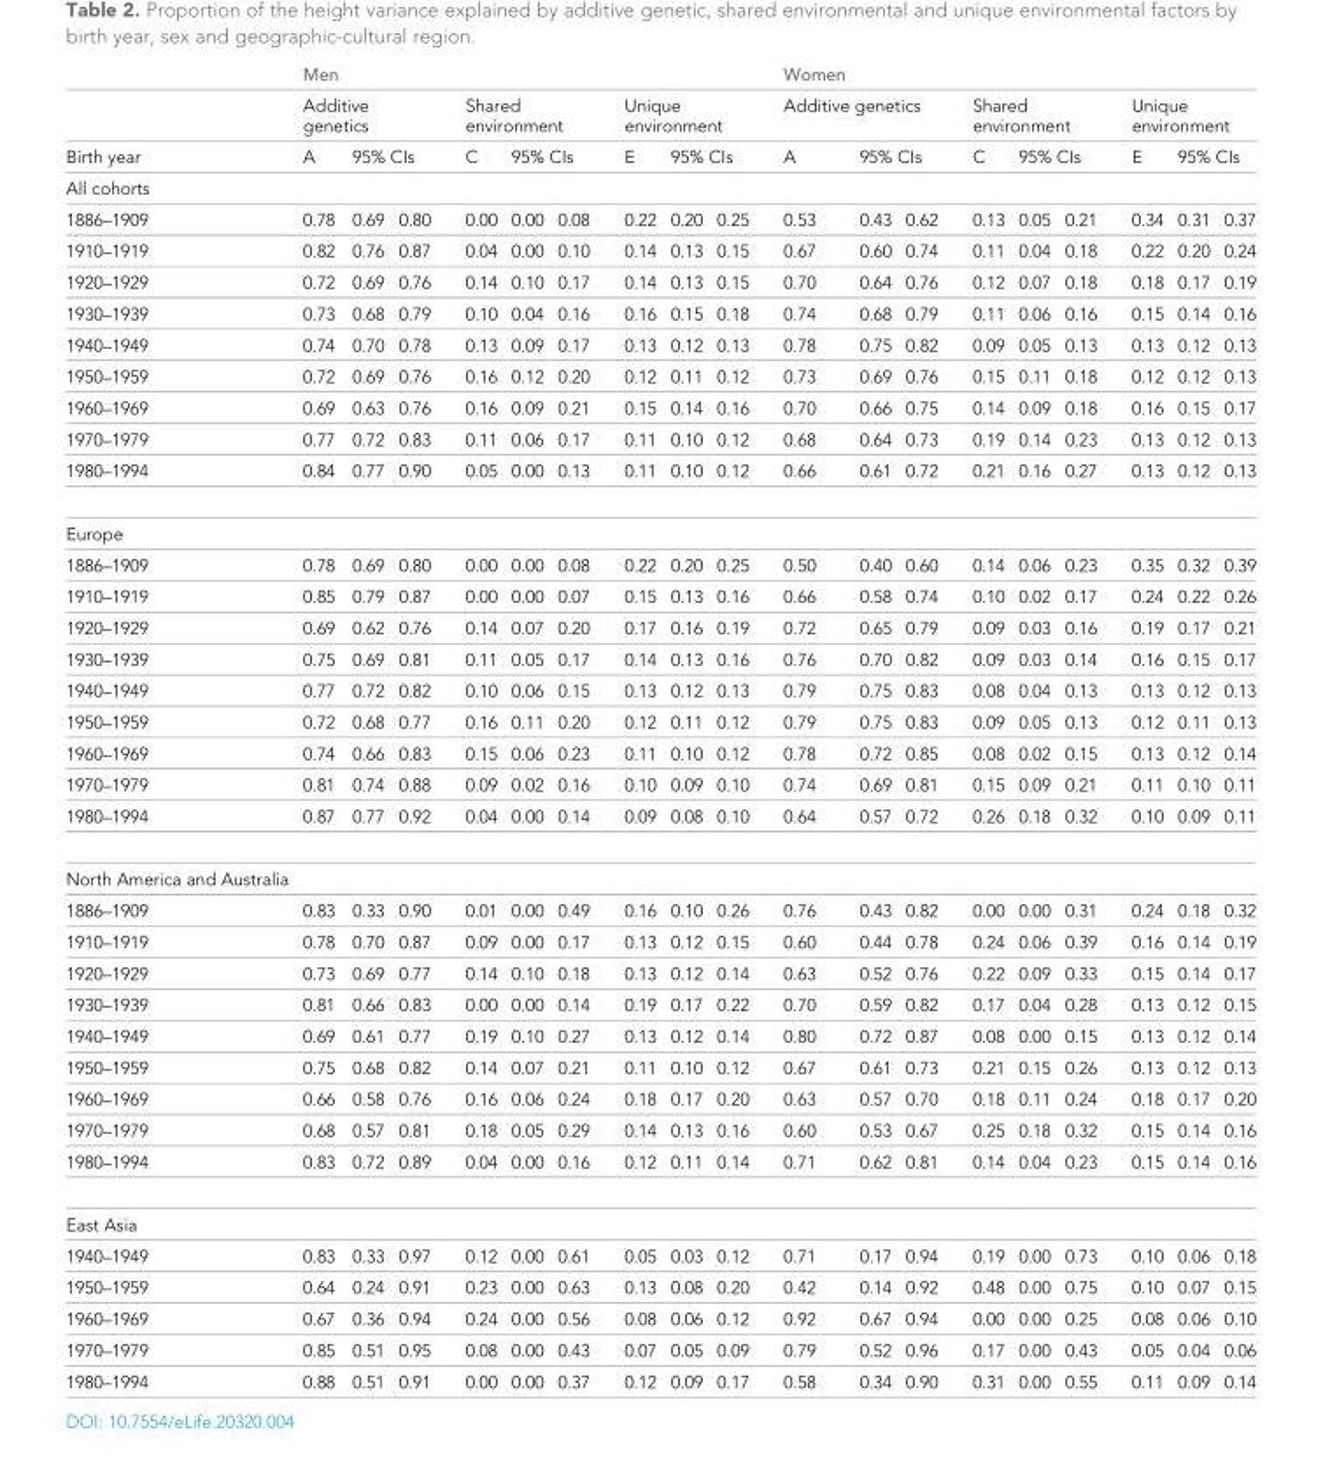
<table><thead><tr><td></td><td>Men</td><td></td><td></td><td></td><td></td><td></td><td></td><td></td><td></td><td>Women</td><td></td><td></td><td></td><td></td><td></td><td></td><td></td><td></td></tr></thead><tbody><tr><td></td><td colspan="3">Additive genetics</td><td colspan="3">Shared environment</td><td colspan="3">Unique environment</td><td colspan="3">Additive genetics</td><td colspan="3">Shared environment</td><td colspan="3">Unique environment</td></tr><tr><td>Birth year</td><td>A</td><td colspan="2">95% CIs</td><td>C</td><td colspan="2">95% CIs</td><td>E</td><td colspan="2">95% CIs</td><td>A</td><td colspan="2">95% CIs</td><td>C</td><td colspan="2">95% CIs</td><td>E</td><td colspan="2">95% CIs</td></tr><tr><td colspan="19">All cohorts</td></tr><tr><td>1886–1909</td><td>0.78</td><td>0.69</td><td>0.80</td><td>0.00</td><td>0.00</td><td>0.08</td><td>0.22</td><td>0.20</td><td>0.25</td><td>0.53</td><td>0.43</td><td>0.62</td><td>0.13</td><td>0.05</td><td>0.21</td><td>0.34</td><td>0.31</td><td>0.37</td></tr><tr><td>1910–1919</td><td>0.82</td><td>0.76</td><td>0.87</td><td>0.04</td><td>0.00</td><td>0.10</td><td>0.14</td><td>0.13</td><td>0.15</td><td>0.67</td><td>0.60</td><td>0.74</td><td>0.11</td><td>0.04</td><td>0.18</td><td>0.22</td><td>0.20</td><td>0.24</td></tr><tr><td>1920–1929</td><td>0.72</td><td>0.69</td><td>0.76</td><td>0.14</td><td>0.10</td><td>0.17</td><td>0.14</td><td>0.13</td><td>0.15</td><td>0.70</td><td>0.64</td><td>0.76</td><td>0.12</td><td>0.07</td><td>0.18</td><td>0.18</td><td>0.17</td><td>0.19</td></tr><tr><td>1930–1939</td><td>0.73</td><td>0.68</td><td>0.79</td><td>0.10</td><td>0.04</td><td>0.16</td><td>0.16</td><td>0.15</td><td>0.18</td><td>0.74</td><td>0.68</td><td>0.79</td><td>0.11</td><td>0.06</td><td>0.16</td><td>0.15</td><td>0.14</td><td>0.16</td></tr><tr><td>1940–1949</td><td>0.74</td><td>0.70</td><td>0.78</td><td>0.13</td><td>0.09</td><td>0.17</td><td>0.13</td><td>0.12</td><td>0.13</td><td>0.78</td><td>0.75</td><td>0.82</td><td>0.09</td><td>0.05</td><td>0.13</td><td>0.13</td><td>0.12</td><td>0.13</td></tr><tr><td>1950–1959</td><td>0.72</td><td>0.69</td><td>0.76</td><td>0.16</td><td>0.12</td><td>0.20</td><td>0.12</td><td>0.11</td><td>0.12</td><td>0.73</td><td>0.69</td><td>0.76</td><td>0.15</td><td>0.11</td><td>0.18</td><td>0.12</td><td>0.12</td><td>0.13</td></tr><tr><td>1960–1969</td><td>0.69</td><td>0.63</td><td>0.76</td><td>0.16</td><td>0.09</td><td>0.21</td><td>0.15</td><td>0.14</td><td>0.16</td><td>0.70</td><td>0.66</td><td>0.75</td><td>0.14</td><td>0.09</td><td>0.18</td><td>0.16</td><td>0.15</td><td>0.17</td></tr><tr><td>1970–1979</td><td>0.77</td><td>0.72</td><td>0.83</td><td>0.11</td><td>0.06</td><td>0.17</td><td>0.11</td><td>0.10</td><td>0.12</td><td>0.68</td><td>0.64</td><td>0.73</td><td>0.19</td><td>0.14</td><td>0.23</td><td>0.13</td><td>0.12</td><td>0.13</td></tr><tr><td>1980–1994</td><td>0.84</td><td>0.77</td><td>0.90</td><td>0.05</td><td>0.00</td><td>0.13</td><td>0.11</td><td>0.10</td><td>0.12</td><td>0.66</td><td>0.61</td><td>0.72</td><td>0.21</td><td>0.16</td><td>0.27</td><td>0.13</td><td>0.12</td><td>0.13</td></tr><tr><td colspan="19">Europe</td></tr><tr><td>1886–1909</td><td>0.78</td><td>0.69</td><td>0.80</td><td>0.00</td><td>0.00</td><td>0.08</td><td>0.22</td><td>0.20</td><td>0.25</td><td>0.50</td><td>0.40</td><td>0.60</td><td>0.14</td><td>0.06</td><td>0.23</td><td>0.35</td><td>0.32</td><td>0.39</td></tr><tr><td>1910–1919</td><td>0.85</td><td>0.79</td><td>0.87</td><td>0.00</td><td>0.00</td><td>0.07</td><td>0.15</td><td>0.13</td><td>0.16</td><td>0.66</td><td>0.58</td><td>0.74</td><td>0.10</td><td>0.02</td><td>0.17</td><td>0.24</td><td>0.22</td><td>0.26</td></tr><tr><td>1920–1929</td><td>0.69</td><td>0.62</td><td>0.76</td><td>0.14</td><td>0.07</td><td>0.20</td><td>0.17</td><td>0.16</td><td>0.19</td><td>0.72</td><td>0.65</td><td>0.79</td><td>0.09</td><td>0.03</td><td>0.16</td><td>0.19</td><td>0.17</td><td>0.21</td></tr><tr><td>1930–1939</td><td>0.75</td><td>0.69</td><td>0.81</td><td>0.11</td><td>0.05</td><td>0.17</td><td>0.14</td><td>0.13</td><td>0.16</td><td>0.76</td><td>0.70</td><td>0.82</td><td>0.09</td><td>0.03</td><td>0.14</td><td>0.16</td><td>0.15</td><td>0.17</td></tr><tr><td>1940–1949</td><td>0.77</td><td>0.72</td><td>0.82</td><td>0.10</td><td>0.06</td><td>0.15</td><td>0.13</td><td>0.12</td><td>0.13</td><td>0.79</td><td>0.75</td><td>0.83</td><td>0.08</td><td>0.04</td><td>0.13</td><td>0.13</td><td>0.12</td><td>0.13</td></tr><tr><td>1950–1959</td><td>0.72</td><td>0.68</td><td>0.77</td><td>0.16</td><td>0.11</td><td>0.20</td><td>0.12</td><td>0.11</td><td>0.12</td><td>0.79</td><td>0.75</td><td>0.83</td><td>0.09</td><td>0.05</td><td>0.13</td><td>0.12</td><td>0.11</td><td>0.13</td></tr><tr><td>1960–1969</td><td>0.74</td><td>0.66</td><td>0.83</td><td>0.15</td><td>0.06</td><td>0.23</td><td>0.11</td><td>0.10</td><td>0.12</td><td>0.78</td><td>0.72</td><td>0.85</td><td>0.08</td><td>0.02</td><td>0.15</td><td>0.13</td><td>0.12</td><td>0.14</td></tr><tr><td>1970–1979</td><td>0.81</td><td>0.74</td><td>0.88</td><td>0.09</td><td>0.02</td><td>0.16</td><td>0.10</td><td>0.09</td><td>0.10</td><td>0.74</td><td>0.69</td><td>0.81</td><td>0.15</td><td>0.09</td><td>0.21</td><td>0.11</td><td>0.10</td><td>0.11</td></tr><tr><td>1980–1994</td><td>0.87</td><td>0.77</td><td>0.92</td><td>0.04</td><td>0.00</td><td>0.14</td><td>0.09</td><td>0.08</td><td>0.10</td><td>0.64</td><td>0.57</td><td>0.72</td><td>0.26</td><td>0.18</td><td>0.32</td><td>0.10</td><td>0.09</td><td>0.11</td></tr><tr><td colspan="19">North America and Australia</td></tr><tr><td>1886–1909</td><td>0.83</td><td>0.33</td><td>0.90</td><td>0.01</td><td>0.00</td><td>0.49</td><td>0.16</td><td>0.10</td><td>0.26</td><td>0.76</td><td>0.43</td><td>0.82</td><td>0.00</td><td>0.00</td><td>0.31</td><td>0.24</td><td>0.18</td><td>0.32</td></tr><tr><td>1910–1919</td><td>0.78</td><td>0.70</td><td>0.87</td><td>0.09</td><td>0.00</td><td>0.17</td><td>0.13</td><td>0.12</td><td>0.15</td><td>0.60</td><td>0.44</td><td>0.78</td><td>0.24</td><td>0.06</td><td>0.39</td><td>0.16</td><td>0.14</td><td>0.19</td></tr><tr><td>1920–1929</td><td>0.73</td><td>0.69</td><td>0.77</td><td>0.14</td><td>0.10</td><td>0.18</td><td>0.13</td><td>0.12</td><td>0.14</td><td>0.63</td><td>0.52</td><td>0.76</td><td>0.22</td><td>0.09</td><td>0.33</td><td>0.15</td><td>0.14</td><td>0.17</td></tr><tr><td>1930–1939</td><td>0.81</td><td>0.66</td><td>0.83</td><td>0.00</td><td>0.00</td><td>0.14</td><td>0.19</td><td>0.17</td><td>0.22</td><td>0.70</td><td>0.59</td><td>0.82</td><td>0.17</td><td>0.04</td><td>0.28</td><td>0.13</td><td>0.12</td><td>0.15</td></tr><tr><td>1940–1949</td><td>0.69</td><td>0.61</td><td>0.77</td><td>0.19</td><td>0.10</td><td>0.27</td><td>0.13</td><td>0.12</td><td>0.14</td><td>0.80</td><td>0.72</td><td>0.87</td><td>0.08</td><td>0.00</td><td>0.15</td><td>0.13</td><td>0.12</td><td>0.14</td></tr><tr><td>1950–1959</td><td>0.75</td><td>0.68</td><td>0.82</td><td>0.14</td><td>0.07</td><td>0.21</td><td>0.11</td><td>0.10</td><td>0.12</td><td>0.67</td><td>0.61</td><td>0.73</td><td>0.21</td><td>0.15</td><td>0.26</td><td>0.13</td><td>0.12</td><td>0.13</td></tr><tr><td>1960–1969</td><td>0.66</td><td>0.58</td><td>0.76</td><td>0.16</td><td>0.06</td><td>0.24</td><td>0.18</td><td>0.17</td><td>0.20</td><td>0.63</td><td>0.57</td><td>0.70</td><td>0.18</td><td>0.11</td><td>0.24</td><td>0.18</td><td>0.17</td><td>0.20</td></tr><tr><td>1970–1979</td><td>0.68</td><td>0.57</td><td>0.81</td><td>0.18</td><td>0.05</td><td>0.29</td><td>0.14</td><td>0.13</td><td>0.16</td><td>0.60</td><td>0.53</td><td>0.67</td><td>0.25</td><td>0.18</td><td>0.32</td><td>0.15</td><td>0.14</td><td>0.16</td></tr><tr><td>1980–1994</td><td>0.83</td><td>0.72</td><td>0.89</td><td>0.04</td><td>0.00</td><td>0.16</td><td>0.12</td><td>0.11</td><td>0.14</td><td>0.71</td><td>0.62</td><td>0.81</td><td>0.14</td><td>0.04</td><td>0.23</td><td>0.15</td><td>0.14</td><td>0.16</td></tr><tr><td colspan="19">East Asia</td></tr><tr><td>1940–1949</td><td>0.83</td><td>0.33</td><td>0.97</td><td>0.12</td><td>0.00</td><td>0.61</td><td>0.05</td><td>0.03</td><td>0.12</td><td>0.71</td><td>0.17</td><td>0.94</td><td>0.19</td><td>0.00</td><td>0.73</td><td>0.10</td><td>0.06</td><td>0.18</td></tr><tr><td>1950–1959</td><td>0.64</td><td>0.24</td><td>0.91</td><td>0.23</td><td>0.00</td><td>0.63</td><td>0.13</td><td>0.08</td><td>0.20</td><td>0.42</td><td>0.14</td><td>0.92</td><td>0.48</td><td>0.00</td><td>0.75</td><td>0.10</td><td>0.07</td><td>0.15</td></tr><tr><td>1960–1969</td><td>0.67</td><td>0.36</td><td>0.94</td><td>0.24</td><td>0.00</td><td>0.56</td><td>0.08</td><td>0.06</td><td>0.12</td><td>0.92</td><td>0.67</td><td>0.94</td><td>0.00</td><td>0.00</td><td>0.25</td><td>0.08</td><td>0.06</td><td>0.10</td></tr><tr><td>1970–1979</td><td>0.85</td><td>0.51</td><td>0.95</td><td>0.08</td><td>0.00</td><td>0.43</td><td>0.07</td><td>0.05</td><td>0.09</td><td>0.79</td><td>0.52</td><td>0.96</td><td>0.17</td><td>0.00</td><td>0.43</td><td>0.05</td><td>0.04</td><td>0.06</td></tr><tr><td>1980–1994</td><td>0.88</td><td>0.51</td><td>0.91</td><td>0.00</td><td>0.00</td><td>0.37</td><td>0.12</td><td>0.09</td><td>0.17</td><td>0.58</td><td>0.34</td><td>0.90</td><td>0.31</td><td>0.00</td><td>0.55</td><td>0.11</td><td>0.09</td><td>0.14</td></tr></tbody></table>